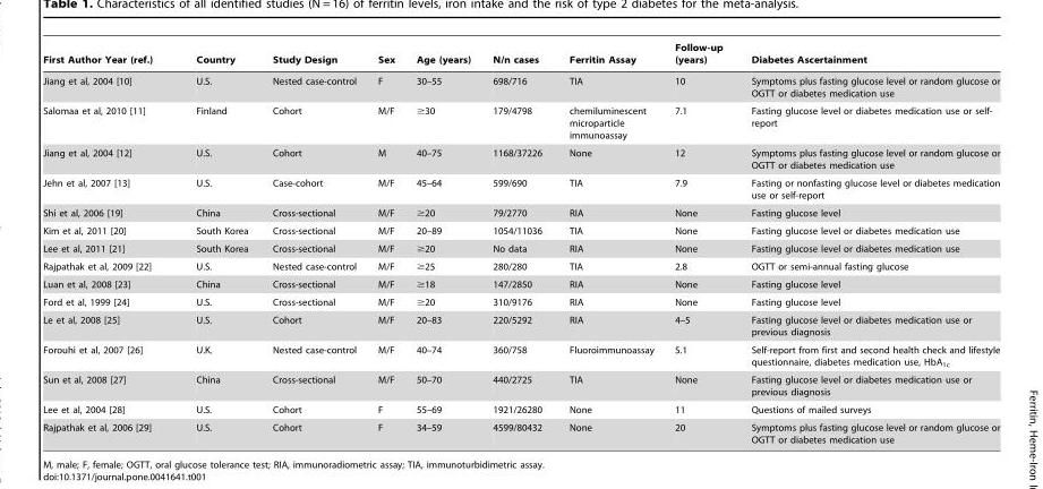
<table><thead><tr><td>First Author Year (ref.)</td><td>Country</td><td>Study Design</td><td>Sex</td><td>Age (years)</td><td>N/n cases</td><td>Ferritin Assay</td><td>Follow-up (years)</td><td>Diabetes Ascertainment</td></tr></thead><tbody><tr><td>Jiang et al, 2004 [10]</td><td>U.S.</td><td>Nested case-control</td><td>F</td><td>30–55</td><td>698/716</td><td>TIA</td><td>10</td><td>Symptoms plus fasting glucose level or random glucose or OGTT or diabetes medication use</td></tr><tr><td>Salomaa et al, 2010 [11]</td><td>Finland</td><td>Cohort</td><td>M/F</td><td>≥30</td><td>179/4798</td><td>chemiluminescent microparticle immunoassay</td><td>7.1</td><td>Fasting glucose level or diabetes medication use or self- report</td></tr><tr><td>Jiang et al, 2004 [12]</td><td>U.S.</td><td>Cohort</td><td>M</td><td>40–75</td><td>1168/37226</td><td>None</td><td>12</td><td>Symptoms plus fasting glucose level or random glucose or OGTT or diabetes medication use</td></tr><tr><td>Jehn et al, 2007 [13]</td><td>U.S.</td><td>Case-cohort</td><td>M/F</td><td>45–64</td><td>599/690</td><td>TIA</td><td>7.9</td><td>Fasting or nonfasting glucose level or diabetes medication use or self-report</td></tr><tr><td>Shi et al, 2006 [19]</td><td>China</td><td>Cross-sectional</td><td>M/F</td><td>≥20</td><td>79/2770</td><td>RIA</td><td>None</td><td>Fasting glucose level</td></tr><tr><td>Kim et al, 2011 [20]</td><td>South Korea</td><td>Cross-sectional</td><td>M/F</td><td>20–89</td><td>1054/11036</td><td>TIA</td><td>None</td><td>Fasting glucose level or diabetes medication use</td></tr><tr><td>Lee et al, 2011 [21]</td><td>South Korea</td><td>Cross-sectional</td><td>M/F</td><td>≥20</td><td>No data</td><td>RIA</td><td>None</td><td>Fasting glucose level or diabetes medication use</td></tr><tr><td>Rajpathak et al, 2009 [22]</td><td>U.S.</td><td>Nested case-control</td><td>M/F</td><td>≥25</td><td>280/280</td><td>TIA</td><td>2.8</td><td>OGTT or semi-annual fasting glucose</td></tr><tr><td>Luan et al, 2008 [23]</td><td>China</td><td>Cross-sectional</td><td>M/F</td><td>≥18</td><td>147/2850</td><td>RIA</td><td>None</td><td>Fasting glucose level</td></tr><tr><td>Ford et al, 1999 [24]</td><td>U.S.</td><td>Cross-sectional</td><td>M/F</td><td>≥20</td><td>310/9176</td><td>RIA</td><td>None</td><td>Fasting glucose level</td></tr><tr><td>Le et al, 2008 [25]</td><td>U.S.</td><td>Cohort</td><td>M/F</td><td>20–83</td><td>220/5292</td><td>RIA</td><td>4–5</td><td>Fasting glucose level or diabetes medication use or previous diagnosis</td></tr><tr><td>Forouhi et al, 2007 [26]</td><td>U.K.</td><td>Nested case-control</td><td>M/F</td><td>40–74</td><td>360/758</td><td>Fluoroimmunoassay</td><td>5.1</td><td>Self-report from first and second health check and lifestyle questionnaire, diabetes medication use, HbA<sub>1c</sub></td></tr><tr><td>Sun et al, 2008 [27]</td><td>China</td><td>Cross-sectional</td><td>M/F</td><td>50–70</td><td>440/2725</td><td>TIA</td><td>None</td><td>Fasting glucose level or diabetes medication use or previous diagnosis</td></tr><tr><td>Lee et al, 2004 [28]</td><td>U.S.</td><td>Cohort</td><td>F</td><td>55–69</td><td>1921/26280</td><td>None</td><td>11</td><td>Questions of mailed surveys</td></tr><tr><td>Rajpathak et al, 2006 [29]</td><td>U.S.</td><td>Cohort</td><td>F</td><td>34–59</td><td>4599/80432</td><td>None</td><td>20</td><td>Symptoms plus fasting glucose level or random glucose or OGTT or diabetes medication use</td></tr></tbody></table>